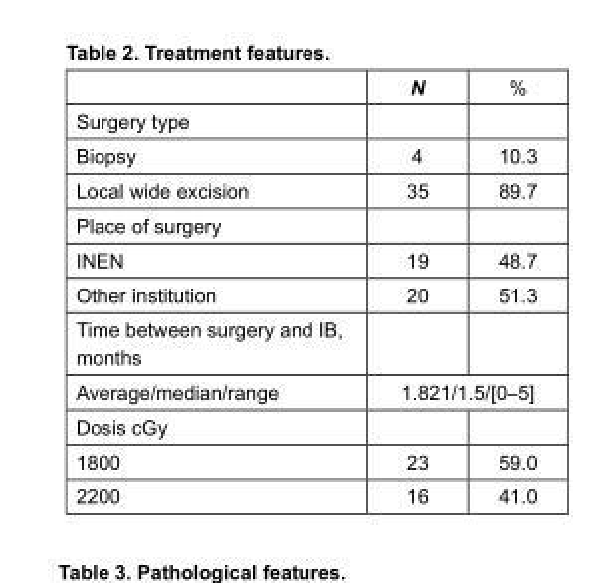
<table><thead><tr><td></td><td>N</td><td>%</td></tr></thead><tbody><tr><td colspan="3">Surgery type</td></tr><tr><td>Biopsy</td><td>4</td><td>10.3</td></tr><tr><td>Local wide excision</td><td>35</td><td>89.7</td></tr><tr><td colspan="3">Place of surgery</td></tr><tr><td>INEN</td><td>19</td><td>48.7</td></tr><tr><td>Other institution</td><td>20</td><td>51.3</td></tr><tr><td colspan="3">Time between surgery and IB, months</td></tr><tr><td>Average/median/range</td><td colspan="2">1.821/1.5/[0–5]</td></tr><tr><td colspan="3">Dosis cGy</td></tr><tr><td>1800</td><td>23</td><td>59.0</td></tr><tr><td>2200</td><td>16</td><td>41.0</td></tr></tbody></table>